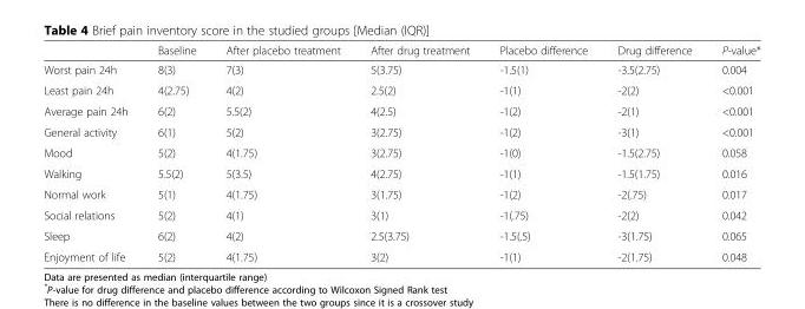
<table><thead><tr><td></td><td>Baseline</td><td>After placebo treatment</td><td>After drug treatment</td><td>Placebo difference</td><td>Drug difference</td><td>P-value*</td></tr></thead><tbody><tr><td>Worst pain 24h</td><td>8(3)</td><td>7(3)</td><td>5(3.75)</td><td>-1.5(1)</td><td>-3.5(2.75)</td><td>0.004</td></tr><tr><td>Least pain 24h</td><td>4(2.75)</td><td>4(2)</td><td>2.5(2)</td><td>-1(1)</td><td>-2(2)</td><td>&lt;0.001</td></tr><tr><td>Average pain 24h</td><td>6(2)</td><td>5.5(2)</td><td>4(2.5)</td><td>-1(2)</td><td>-2(1)</td><td>&lt;0.001</td></tr><tr><td>General activity</td><td>6(1)</td><td>5(2)</td><td>3(2.75)</td><td>-1(2)</td><td>-3(1)</td><td>&lt;0.001</td></tr><tr><td>Mood</td><td>5(2)</td><td>4(1.75)</td><td>3(2.75)</td><td>-1(0)</td><td>-1.5(2.75)</td><td>0.058</td></tr><tr><td>Walking</td><td>5.5(2)</td><td>5(3.5)</td><td>4(2.75)</td><td>-1(1)</td><td>-1.5(1.75)</td><td>0.016</td></tr><tr><td>Normal work</td><td>5(1)</td><td>4(1.75)</td><td>3(1.75)</td><td>-1(2)</td><td>-2(.75)</td><td>0.017</td></tr><tr><td>Social relations</td><td>5(2)</td><td>4(1)</td><td>3(1)</td><td>-1(.75)</td><td>-2(2)</td><td>0.042</td></tr><tr><td>Sleep</td><td>6(2)</td><td>4(2)</td><td>2.5(3.75)</td><td>-1.5(.5)</td><td>-3(1.75)</td><td>0.065</td></tr><tr><td>Enjoyment of life</td><td>5(2)</td><td>4(1.75)</td><td>3(2)</td><td>-1(1)</td><td>-2(1.75)</td><td>0.048</td></tr></tbody></table>